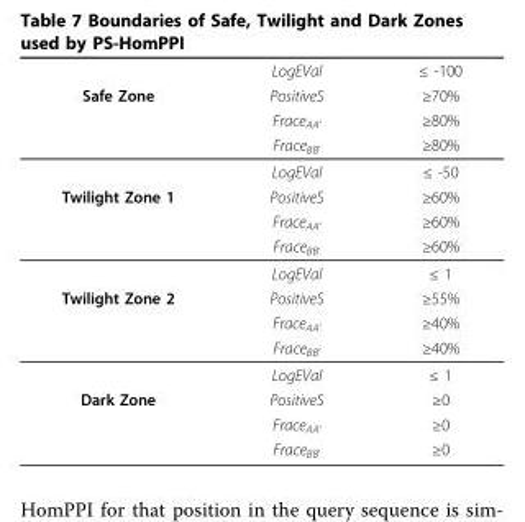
<table><thead><tr><td rowspan="4">Safe Zone</td><td rowspan="4">LogEVal PositiveS FraceAA’ FraceBB’</td><td rowspan="4">≤ -100 ≥70% ≥80% ≥80%</td></tr><tr></tr><tr></tr><tr></tr></thead><tbody><tr><td></td><td>LogEVal</td><td>≤ -50</td></tr><tr><td rowspan="4">Twilight Zone 1</td><td>PositiveS</td><td>≥60%</td></tr><tr><td>Frace<sub>AA’</sub></td><td>≥60%</td></tr><tr><td>Frace<sub>BB’</sub></td><td>≥60%</td></tr><tr><td>LogEVal</td><td>≤ 1</td></tr><tr><td rowspan="4">Twilight Zone 2</td><td>PositiveS</td><td>≥55%</td></tr><tr><td>Frace<sub>AA’</sub></td><td>≥40%</td></tr><tr><td>Frace<sub>BB’</sub></td><td>≥40%</td></tr><tr><td>LogEVal</td><td>≤ 1</td></tr><tr><td rowspan="3">Dark Zone</td><td>PositiveS</td><td>≥0</td></tr><tr><td>Frace<sub>AA’</sub></td><td>≥0</td></tr><tr><td>Frace<sub>BB’</sub></td><td>≥0</td></tr></tbody></table>